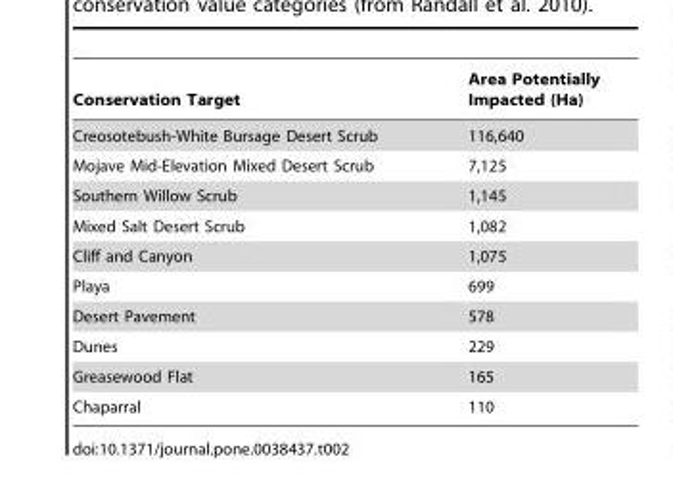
<table><thead><tr><td>Conservation Target</td><td>Area Potentially Impacted (Ha)</td></tr></thead><tbody><tr><td>Creosotebush-White Bursage Desert Scrub</td><td>116,640</td></tr><tr><td>Mojave Mid-Elevation Mixed Desert Scrub</td><td>7,125</td></tr><tr><td>Southern Willow Scrub</td><td>1,145</td></tr><tr><td>Mixed Salt Desert Scrub</td><td>1,082</td></tr><tr><td>Cliff and Canyon</td><td>1,075</td></tr><tr><td>Playa</td><td>699</td></tr><tr><td>Desert Pavement</td><td>578</td></tr><tr><td>Dunes</td><td>229</td></tr><tr><td>Greasewood Flat</td><td>165</td></tr><tr><td>Chaparral</td><td>110</td></tr></tbody></table>